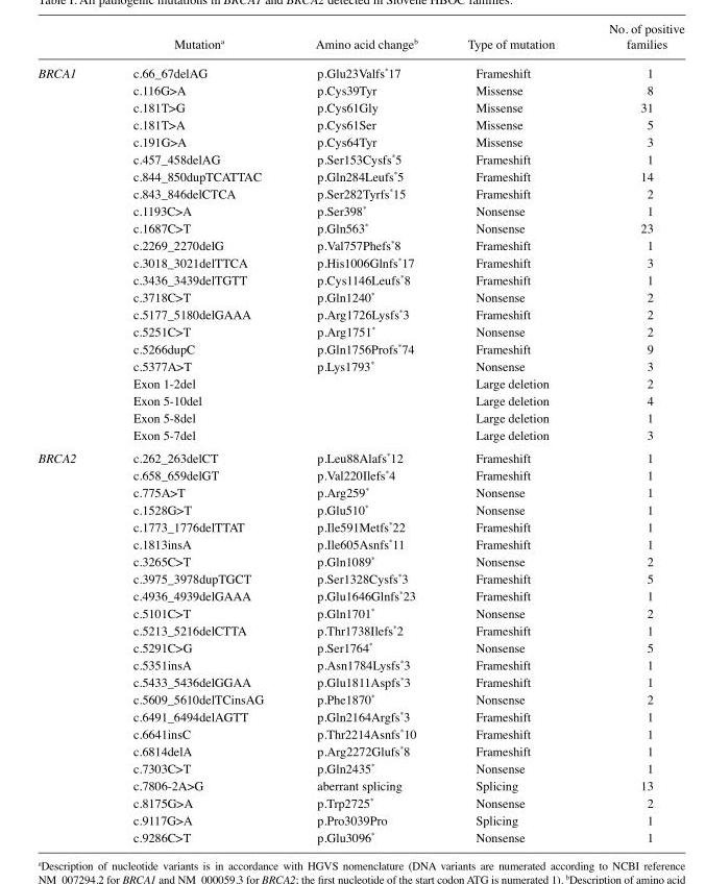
<table><thead><tr><td></td><td>Mutation<sup>a</sup></td><td>Amino acid change<sup>b</sup></td><td>Type of mutation</td><td>families</td></tr></thead><tbody><tr><td rowspan="22">BRCA1</td><td>c.66_67delAG</td><td>p.Glu23Valfs*17</td><td>Frameshift</td><td>1</td></tr><tr><td>c.116G&gt;A</td><td>p.Cys39Tyr</td><td>Missense</td><td>8</td></tr><tr><td>c.181T&gt;G</td><td>p.Cys61Gly</td><td>Missense</td><td>31</td></tr><tr><td>c.181T&gt;A</td><td>p.Cys61Ser</td><td>Missense</td><td>5</td></tr><tr><td>c.191G&gt;A</td><td>p.Cys64Tyr</td><td>Missense</td><td>3</td></tr><tr><td>c.457_458delAG</td><td>p.Ser153Cysfs*5</td><td>Frameshift</td><td>1</td></tr><tr><td>c.844_850dupTCATTAC</td><td>p.Gln284Leufs*5</td><td>Frameshift</td><td>14</td></tr><tr><td>c.843_846delCTCA</td><td>p.Ser282Tyrfs*15</td><td>Frameshift</td><td>2</td></tr><tr><td>c.1193C&gt;A</td><td>p.Ser398*</td><td>Nonsense</td><td>1</td></tr><tr><td>c.1687C&gt;T</td><td>p.Gln563*</td><td>Nonsense</td><td>23</td></tr><tr><td>c.2269_2270delG</td><td>p.Val757Phefs*8</td><td>Frameshift</td><td>1</td></tr><tr><td>c.3018_3021delTTCA</td><td>p.His1006Glnfs*17</td><td>Frameshift</td><td>3</td></tr><tr><td>c.3436_3439delTGTT</td><td>p.Cys1146Leufs*8</td><td>Frameshift</td><td>1</td></tr><tr><td>c.3718C&gt;T</td><td>p.Gln1240*</td><td>Nonsense</td><td>2</td></tr><tr><td>c.5177_5180delGAAA</td><td>p.Arg1726Lysfs*3</td><td>Frameshift</td><td>2</td></tr><tr><td>c.5251C&gt;T</td><td>p.Arg1751*</td><td>Nonsense</td><td>2</td></tr><tr><td>c.5266dupC</td><td>p.Gln1756Profs*74</td><td>Frameshift</td><td>9</td></tr><tr><td>c.5377A&gt;T</td><td>p.Lys1793*</td><td>Nonsense</td><td>3</td></tr><tr><td>Exon 1-2del</td><td></td><td>Large deletion</td><td>2</td></tr><tr><td>Exon 5-10del</td><td></td><td>Large deletion</td><td>4</td></tr><tr><td>Exon 5-8del</td><td></td><td>Large deletion</td><td>1</td></tr><tr><td>Exon 5-7del</td><td></td><td>Large deletion</td><td>3</td></tr><tr><td rowspan="23">BRCA2</td><td>c.262_263delCT</td><td>p.Leu88Alafs*12</td><td>Frameshift</td><td>1</td></tr><tr><td>c.658_659delGT</td><td>p.Val220Ilefs*4</td><td>Frameshift</td><td>1</td></tr><tr><td>c.775A&gt;T</td><td>p.Arg259*</td><td>Nonsense</td><td>1</td></tr><tr><td>c.1528G&gt;T</td><td>p.Glu510*</td><td>Nonsense</td><td>1</td></tr><tr><td>c.1773_1776delTTAT</td><td>p.Ile591Metfs*22</td><td>Frameshift</td><td>1</td></tr><tr><td>c.1813insA</td><td>p.Ile605Asnfs*11</td><td>Frameshift</td><td>1</td></tr><tr><td>c.3265C&gt;T</td><td>p.Gln1089*</td><td>Nonsense</td><td>2</td></tr><tr><td>c.3975_3978dupTGCT</td><td>p.Ser1328Cysfs*3</td><td>Frameshift</td><td>5</td></tr><tr><td>c.4936_4939delGAAA</td><td>p.Glu1646Glnfs*23</td><td>Frameshift</td><td>1</td></tr><tr><td>c.5101C&gt;T</td><td>p.Gln1701*</td><td>Nonsense</td><td>2</td></tr><tr><td>c.5213_5216delCTTA</td><td>p.Thr1738Ilefs*2</td><td>Frameshift</td><td>1</td></tr><tr><td>c.5291C&gt;G</td><td>p.Ser1764*</td><td>Nonsense</td><td>5</td></tr><tr><td>c.5351insA</td><td>p.Asn1784Lysfs*3</td><td>Frameshift</td><td>1</td></tr><tr><td>c.5433_5436delGGAA</td><td>p.Glu1811Aspfs*3</td><td>Frameshift</td><td>1</td></tr><tr><td>c.5609_5610delTCinsAG</td><td>p.Phe1870*</td><td>Nonsense</td><td>2</td></tr><tr><td>c.6491_6494delAGTT</td><td>p.Gln2164Argfs*3</td><td>Frameshift</td><td>1</td></tr><tr><td>c.6641insC</td><td>p.Thr2214Asnfs*10</td><td>Frameshift</td><td>1</td></tr><tr><td>c.6814delA</td><td>p.Arg2272Glufs*8</td><td>Frameshift</td><td>1</td></tr><tr><td>c.7303C&gt;T</td><td>p.Gln2435*</td><td>Nonsense</td><td>1</td></tr><tr><td>c.7806-2A&gt;G</td><td>aberrant splicing</td><td>Splicing</td><td>13</td></tr><tr><td>c.8175G&gt;A</td><td>p.Trp2725*</td><td>Nonsense</td><td>2</td></tr><tr><td>c.9117G&gt;A</td><td>p.Pro3039Pro</td><td>Splicing</td><td>1</td></tr><tr><td>c.9286C&gt;T</td><td>p.Glu3096*</td><td>Nonsense</td><td>1</td></tr></tbody></table>